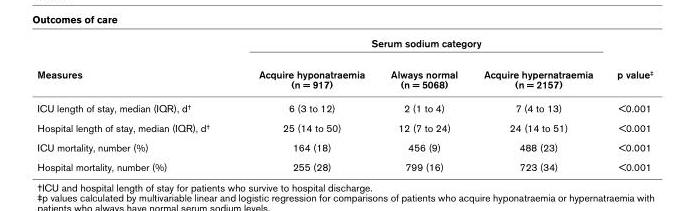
<table><thead><tr><td rowspan="2">Measures</td><td colspan="3">Serum sodium category</td><td rowspan="2">p value<sup>‡</sup></td></tr><tr><td>Acquire hyponatraemia (n = 917)</td><td>Always normal (n = 5068)</td><td>Acquire hypernatraemia (n = 2157)</td></tr></thead><tbody><tr><td>ICU length of stay, median (IQR), d<sup>†</sup></td><td>6 (3 to 12)</td><td>2 (1 to 4)</td><td>7 (4 to 13)</td><td>&lt;0.001</td></tr><tr><td>Hospital length of stay, median (IQR), d<sup>†</sup></td><td>25 (14 to 50)</td><td>12 (7 to 24)</td><td>24 (14 to 51)</td><td>&lt;0.001</td></tr><tr><td>ICU mortality, number (%)</td><td>164 (18)</td><td>456 (9)</td><td>488 (23)</td><td>&lt;0.001</td></tr><tr><td>Hospital mortality, number (%)</td><td>255 (28)</td><td>799 (16)</td><td>723 (34)</td><td>&lt;0.001</td></tr></tbody></table>